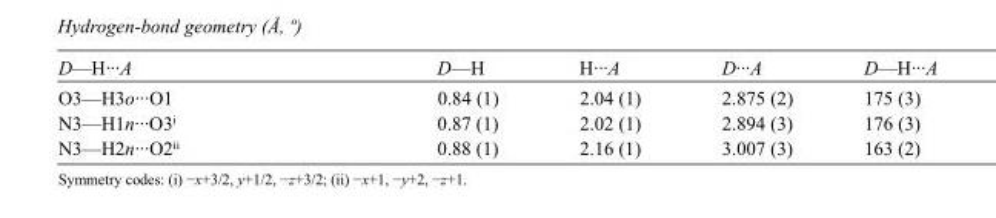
<table><tbody><tr><td>D—H···A</td><td>D—H</td><td>H···A</td><td>D···A</td><td>D—H···A</td></tr><tr><td>O3—H3o···O1</td><td>0.84 (1)</td><td>2.04 (1)</td><td>2.875 (2)</td><td>175 (3)</td></tr><tr><td>N3—H1n···O3<sup>i</sup></td><td>0.87 (1)</td><td>2.02 (1)</td><td>2.894 (3)</td><td>176 (3)</td></tr><tr><td>N3—H2n···O2<sup>ii</sup></td><td>0.88 (1)</td><td>2.16 (1)</td><td>3.007 (3)</td><td>163 (2)</td></tr></tbody></table>